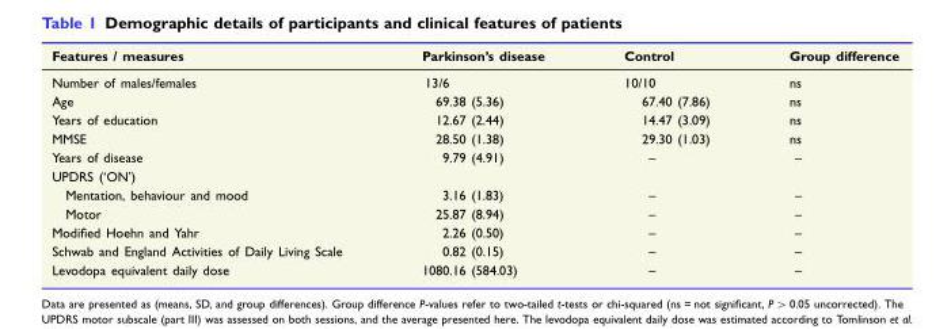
<table><thead><tr><td>Features / measures</td><td>Parkinson’s disease</td><td>Control</td><td>Group difference</td></tr></thead><tbody><tr><td>Number of males/females</td><td>13/6</td><td>10/10</td><td>ns</td></tr><tr><td>Age</td><td>69.38 (5.36)</td><td>67.40 (7.86)</td><td>ns</td></tr><tr><td>Years of education</td><td>12.67 (2.44)</td><td>14.47 (3.09)</td><td>ns</td></tr><tr><td>MMSE</td><td>28.50 (1.38)</td><td>29.30 (1.03)</td><td>ns</td></tr><tr><td>Years of disease</td><td>9.79 (4.91)</td><td>–</td><td>–</td></tr><tr><td colspan="4">UPDRS (‘ON’)</td></tr><tr><td>Mentation, behaviour and mood</td><td>3.16 (1.83)</td><td>–</td><td>–</td></tr><tr><td>Motor</td><td>25.87 (8.94)</td><td>–</td><td>–</td></tr><tr><td>Modified Hoehn and Yahr</td><td>2.26 (0.50)</td><td>–</td><td>–</td></tr><tr><td>Schwab and England Activities of Daily Living Scale</td><td>0.82 (0.15)</td><td>–</td><td>–</td></tr><tr><td>Levodopa equivalent daily dose</td><td>1080.16 (584.03)</td><td>–</td><td>–</td></tr></tbody></table>